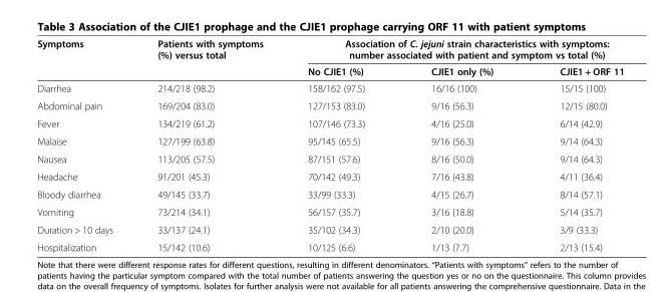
<table><thead><tr><td rowspan="2">Symptoms</td><td rowspan="2">Patients with symptoms (%) versus total</td><td colspan="3">Association of C. jejuni strain characteristics with symptoms: number associated with patient and symptom vs total (%)</td></tr><tr><td>No CJIE1 (%)</td><td>CJIE1 only (%)</td><td>CJIE1 + ORF 11</td></tr></thead><tbody><tr><td>Diarrhea</td><td>214/218 (98.2)</td><td>158/162 (97.5)</td><td>16/16 (100)</td><td>15/15 (100)</td></tr><tr><td>Abdominal pain</td><td>169/204 (83.0)</td><td>127/153 (83.0)</td><td>9/16 (56.3)</td><td>12/15 (80.0)</td></tr><tr><td>Fever</td><td>134/219 (61.2)</td><td>107/146 (73.3)</td><td>4/16 (25.0)</td><td>6/14 (42.9)</td></tr><tr><td>Malaise</td><td>127/199 (63.8)</td><td>95/145 (65.5)</td><td>9/16 (56.3)</td><td>9/14 (64.3)</td></tr><tr><td>Nausea</td><td>113/205 (57.5)</td><td>87/151 (57.6)</td><td>8/16 (50.0)</td><td>9/14 (64.3)</td></tr><tr><td>Headache</td><td>91/201 (45.3)</td><td>70/142 (49.3)</td><td>7/16 (43.8)</td><td>4/11 (36.4)</td></tr><tr><td>Bloody diarrhea</td><td>49/145 (33.7)</td><td>33/99 (33.3)</td><td>4/15 (26.7)</td><td>8/14 (57.1)</td></tr><tr><td>Vomiting</td><td>73/214 (34.1)</td><td>56/157 (35.7)</td><td>3/16 (18.8)</td><td>5/14 (35.7)</td></tr><tr><td>Duration &gt; 10 days</td><td>33/137 (24.1)</td><td>35/102 (34.3)</td><td>2/10 (20.0)</td><td>3/9 (33.3)</td></tr><tr><td>Hospitalization</td><td>15/142 (10.6)</td><td>10/125 (6.6)</td><td>1/13 (7.7)</td><td>2/13 (15.4)</td></tr></tbody></table>